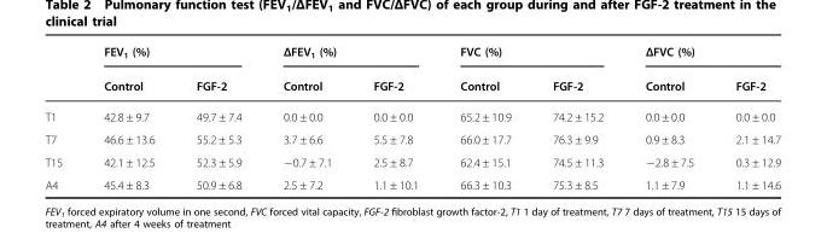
<table><thead><tr><td rowspan="2"></td><td colspan="2">FEV<sub>1</sub> (%)</td><td colspan="2">ΔFEV<sub>1</sub> (%)</td><td colspan="2">FVC (%)</td><td colspan="2">ΔFVC (%)</td></tr><tr><td>Control</td><td>FGF-2</td><td>Control</td><td>FGF-2</td><td>Control</td><td>FGF-2</td><td>Control</td><td>FGF-2</td></tr></thead><tbody><tr><td>T1</td><td>42.8 ± 9.7</td><td>49.7 ± 7.4</td><td>0.0 ± 0.0</td><td>0.0 ± 0.0</td><td>65.2 ± 10.9</td><td>74.2 ± 15.2</td><td>0.0 ± 0.0</td><td>0.0 ± 0.0</td></tr><tr><td>T7</td><td>46.6 ± 13.6</td><td>55.2 ± 5.3</td><td>3.7 ± 6.6</td><td>5.5 ± 7.8</td><td>66.0 ± 17.7</td><td>76.3 ± 9.9</td><td>0.9 ± 8.3</td><td>2.1 ± 14.7</td></tr><tr><td>T15</td><td>42.1 ± 12.5</td><td>52.3 ± 5.9</td><td>−0.7 ± 7.1</td><td>2.5 ± 8.7</td><td>62.4 ± 15.1</td><td>74.5 ± 11.3</td><td>−2.8 ± 7.5</td><td>0.3 ± 12.9</td></tr><tr><td>A4</td><td>45.4 ± 8.3</td><td>50.9 ± 6.8</td><td>2.5 ± 7.2</td><td>1.1 ± 10.1</td><td>66.3 ± 10.3</td><td>75.3 ± 8.5</td><td>1.1 ± 7.9</td><td>1.1 ± 14.6</td></tr></tbody></table>